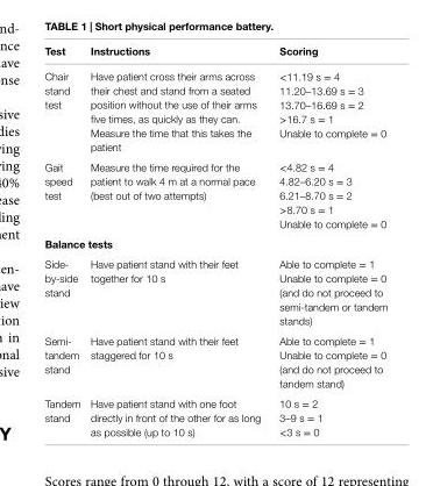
<table><thead><tr><td>Test</td><td>instructions</td><td>Scoring</td></tr></thead><tbody><tr><td>Chair stand test</td><td>Have patient cross their arms across their chest and stand from a seated position without the use of their arms five times, as quickly as they can. Measure the time that this takes the patient</td><td>&lt;11.19 s = 4 11.20–13.69 s = 3 13.70–16.69 s = 2 &gt;16.7 s = 1 Unable to complete = 0</td></tr><tr><td>Gait speed test</td><td>Measure the time required for the patient to walk 4 m at a normal pace (best out of two attempts)</td><td>&lt;4.82 s = 4 4.82–6.20 s = 3 6.21–8.70 s = 2 &gt;8.70 s = 1 Unable to complete = 0</td></tr><tr><td colspan="3">Balance tests</td></tr><tr><td>Side- by-side stand</td><td>Have patient stand with their feet together for 10 s</td><td>Able to complete = 1 Unable to complete = 0 (and do not proceed to semi-tandem or tandem stands)</td></tr><tr><td>Semi- tandem stand</td><td>Have patient stand with their feet staggered for 10 s</td><td>Able to complete = 1 Unable to complete = 0 (and do not proceed to tandem stand)</td></tr><tr><td>Tandem stand</td><td>Have patient stand with one foot directly in front of the other for as long as possible (up to 10 s)</td><td>10 s = 2 3–9 s = 1 &lt;3 s = 0</td></tr></tbody></table>